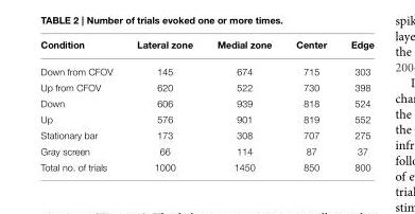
<table><thead><tr><td>Condition</td><td>Lateral zone</td><td>Medial zone</td><td>Center</td><td>Edge</td></tr></thead><tbody><tr><td>Down from CFOV</td><td>145</td><td>674</td><td>715</td><td>303</td></tr><tr><td>Up from CFOV</td><td>620</td><td>522</td><td>730</td><td>398</td></tr><tr><td>Down</td><td>606</td><td>939</td><td>818</td><td>524</td></tr><tr><td>Up</td><td>576</td><td>901</td><td>819</td><td>552</td></tr><tr><td>Stationary bar</td><td>173</td><td>308</td><td>707</td><td>275</td></tr><tr><td>Gray screen</td><td>66</td><td>114</td><td>87</td><td>37</td></tr><tr><td>Total no. of trials</td><td>1000</td><td>1450</td><td>850</td><td>800</td></tr></tbody></table>